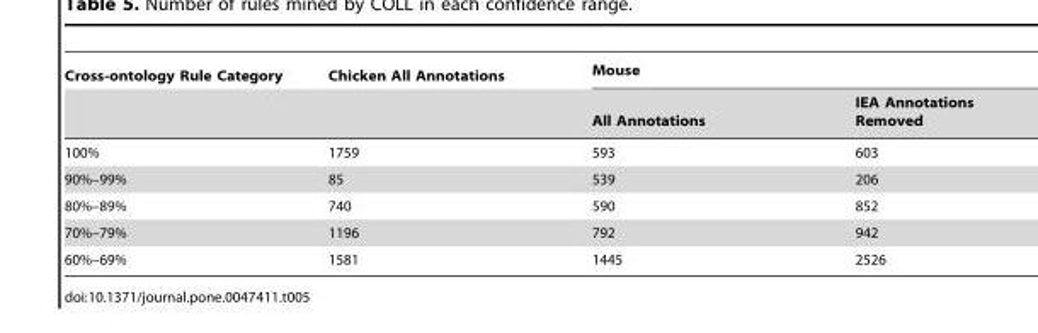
<table><thead><tr><td rowspan="2">Cross-ontology Rule Category</td><td rowspan="2">Chicken All Annotations</td><td colspan="2">Mouse</td></tr><tr><td>All Annotations</td><td>IEA Annotations Removed</td></tr></thead><tbody><tr><td>100%</td><td>1759</td><td>593</td><td>603</td></tr><tr><td>90%–99%</td><td>85</td><td>539</td><td>206</td></tr><tr><td>80%–89%</td><td>740</td><td>590</td><td>852</td></tr><tr><td>70%–79%</td><td>1196</td><td>792</td><td>942</td></tr><tr><td>60%–69%</td><td>1581</td><td>1445</td><td>2526</td></tr></tbody></table>